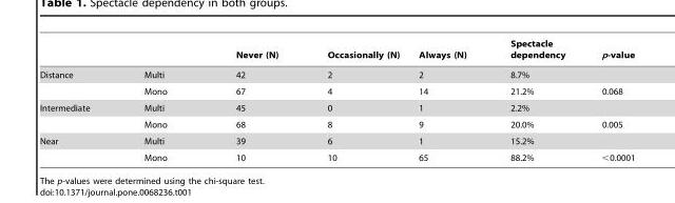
<table><thead><tr><td></td><td></td><td>Never (N)</td><td>Occasionally (N)</td><td>Always (N)</td><td>Spectacle dependency</td><td>p-value</td></tr></thead><tbody><tr><td rowspan="2">Distance</td><td>Multi</td><td>42</td><td>2</td><td>2</td><td>8.7%</td><td></td></tr><tr><td>Mono</td><td>67</td><td>4</td><td>14</td><td>21.2%</td><td>0.068</td></tr><tr><td rowspan="2">Intermediate</td><td>Multi</td><td>45</td><td>0</td><td>1</td><td>2.2%</td><td></td></tr><tr><td>Mono</td><td>68</td><td>8</td><td>9</td><td>20.0%</td><td>0.005</td></tr><tr><td rowspan="2">Near</td><td>Multi</td><td>39</td><td>6</td><td>1</td><td>15.2%</td><td></td></tr><tr><td>Mono</td><td>10</td><td>10</td><td>65</td><td>88.2%</td><td>&lt;0.0001</td></tr></tbody></table>